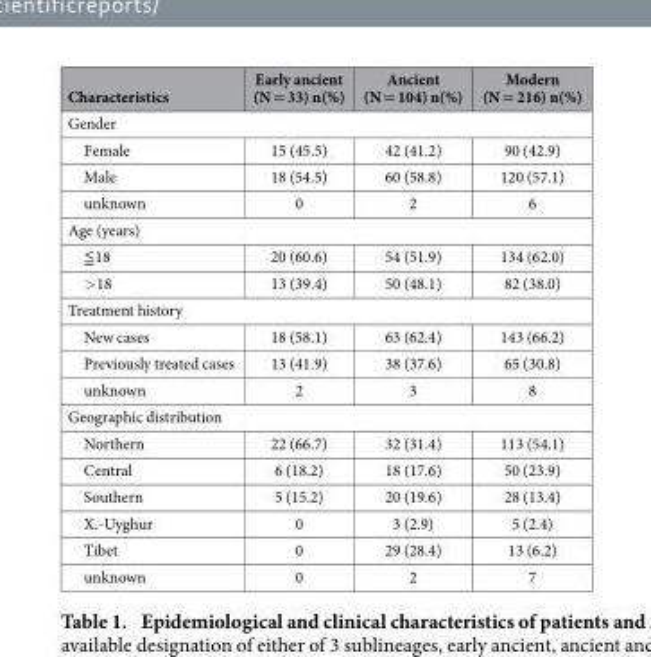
<table><thead><tr><td>Characteristics</td><td>Early ancient (N = 33) n(%)</td><td>Ancient (N = 104) n(%)</td><td>Modern (N = 216) n(%)</td></tr></thead><tbody><tr><td colspan="4">Gender</td></tr><tr><td>Female</td><td>15 (45.5)</td><td>42 (41.2)</td><td>90 (42.9)</td></tr><tr><td>Male</td><td>18 (54.5)</td><td>60 (58.8)</td><td>120 (57.1)</td></tr><tr><td>unknown</td><td>0</td><td>2</td><td>6</td></tr><tr><td colspan="4">Age (years)</td></tr><tr><td>≦ 18</td><td>20 (60.6)</td><td>54 (51.9)</td><td>134 (62.0)</td></tr><tr><td>&gt; 18</td><td>13 (39.4)</td><td>50 (48.1)</td><td>82 (38.0)</td></tr><tr><td colspan="4">Treatment history</td></tr><tr><td>New cases</td><td>18 (58.1)</td><td>63 (62.4)</td><td>143 (66.2)</td></tr><tr><td>Previously treated cases</td><td>13 (41.9)</td><td>38 (37.6)</td><td>65 (30.8)</td></tr><tr><td>unknown</td><td>2</td><td>3</td><td>8</td></tr><tr><td colspan="4">Geographic distribution</td></tr><tr><td>Northern</td><td>22 (66.7)</td><td>32 (31.4)</td><td>113 (54.1)</td></tr><tr><td>Central</td><td>6 (18.2)</td><td>18 (17.6)</td><td>50 (23.9)</td></tr><tr><td>Southern</td><td>5 (15.2)</td><td>20 (19.6)</td><td>28 (13.4)</td></tr><tr><td>X.-Uyghur</td><td>0</td><td>3 (2.9)</td><td>5 (2.4)</td></tr><tr><td>Tibet</td><td>0</td><td>29 (28.4)</td><td>13 (6.2)</td></tr><tr><td>unknown</td><td>0</td><td>2</td><td>7</td></tr></tbody></table>